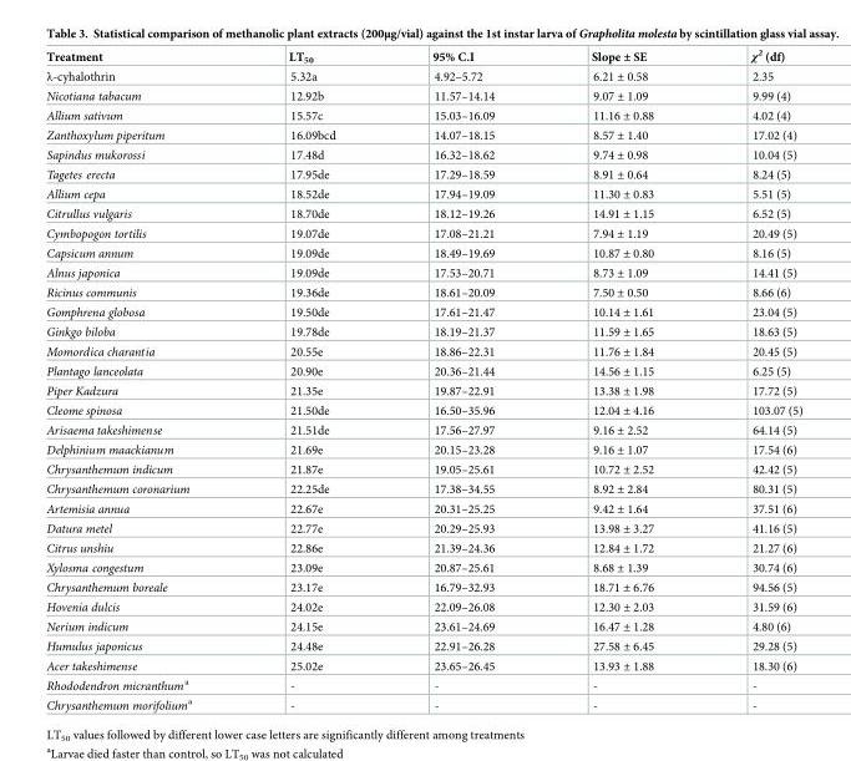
<table><thead><tr><td>Treatment</td><td>LT<sub>50</sub></td><td>95% C.I</td><td>Slope ± SE</td><td>χ<sup>2</sup> (df)</td></tr></thead><tbody><tr><td>λ-cyhalothrin</td><td>5.32a</td><td>4.92–5.72</td><td>6.21 ± 0.58</td><td>2.35</td></tr><tr><td>Nicotiana tabacum</td><td>12.92b</td><td>11.57–14.14</td><td>9.07 ± 1.09</td><td>9.99 (4)</td></tr><tr><td>Allium sativum</td><td>15.57c</td><td>15.03–16.09</td><td>11.16 ± 0.88</td><td>4.02 (4)</td></tr><tr><td>Zanthoxylum piperitum</td><td>16.09bcd</td><td>14.07–18.15</td><td>8.57 ± 1.40</td><td>17.02 (4)</td></tr><tr><td>Sapindus mukorossi</td><td>17.48d</td><td>16.32–18.62</td><td>9.74 ± 0.98</td><td>10.04 (5)</td></tr><tr><td>Tagetes erecta</td><td>17.95de</td><td>17.29–18.59</td><td>8.91 ± 0.64</td><td>8.24 (5)</td></tr><tr><td>Allium cepa</td><td>18.52de</td><td>17.94–19.09</td><td>11.30 ± 0.83</td><td>5.51 (5)</td></tr><tr><td>Citrullus vulgaris</td><td>18.70de</td><td>18.12–19.26</td><td>14.91 ± 1.15</td><td>6.52 (5)</td></tr><tr><td>Cymbopogon tortilis</td><td>19.07de</td><td>17.08–21.21</td><td>7.94 ± 1.19</td><td>20.49 (5)</td></tr><tr><td>Capsicum annum</td><td>19.09de</td><td>18.49–19.69</td><td>10.87 ± 0.80</td><td>8.16 (5)</td></tr><tr><td>Alnus japonica</td><td>19.09de</td><td>17.53–20.71</td><td>8.73 ± 1.09</td><td>14.41 (5)</td></tr><tr><td>Ricinus communis</td><td>19.36de</td><td>18.61–20.09</td><td>7.50 ± 0.50</td><td>8.66 (6)</td></tr><tr><td>Gomphrena globosa</td><td>19.50de</td><td>17.61–21.47</td><td>10.14 ± 1.61</td><td>23.04 (5)</td></tr><tr><td>Ginkgo biloba</td><td>19.78de</td><td>18.19–21.37</td><td>11.59 ± 1.65</td><td>18.63 (5)</td></tr><tr><td>Momordica charantia</td><td>20.55e</td><td>18.86–22.31</td><td>11.76 ± 1.84</td><td>20.45 (5)</td></tr><tr><td>Plantago lanceolata</td><td>20.90e</td><td>20.36–21.44</td><td>14.56 ± 1.15</td><td>6.25 (5)</td></tr><tr><td>Piper Kadzura</td><td>21.35e</td><td>19.87–22.91</td><td>13.38 ± 1.98</td><td>17.72 (5)</td></tr><tr><td>Cleome spinosa</td><td>21.50de</td><td>16.50–35.96</td><td>12.04 ± 4.16</td><td>103.07 (5)</td></tr><tr><td>Arisaema takeshimense</td><td>21.51de</td><td>17.56–27.97</td><td>9.16 ± 2.52</td><td>64.14 (5)</td></tr><tr><td>Delphinium maackianum</td><td>21.69e</td><td>20.15–23.28</td><td>9.16 ± 1.07</td><td>17.54 (6)</td></tr><tr><td>Chrysanthemum indicum</td><td>21.87e</td><td>19.05–25.61</td><td>10.72 ± 2.52</td><td>42.42 (5)</td></tr><tr><td>Chrysanthemum coronarium</td><td>22.25de</td><td>17.38–34.55</td><td>8.92 ± 2.84</td><td>80.31 (5)</td></tr><tr><td>Artemisia annua</td><td>22.67e</td><td>20.31–25.25</td><td>9.42 ± 1.64</td><td>37.51 (6)</td></tr><tr><td>Datura metel</td><td>22.77e</td><td>20.29–25.93</td><td>13.98 ± 3.27</td><td>41.16 (5)</td></tr><tr><td>Citrus unshiu</td><td>22.86e</td><td>21.39–24.36</td><td>12.84 ± 1.72</td><td>21.27 (6)</td></tr><tr><td>Xylosma congestum</td><td>23.09e</td><td>20.87–25.61</td><td>8.68 ± 1.39</td><td>30.74 (6)</td></tr><tr><td>Chrysanthemum boreale</td><td>23.17e</td><td>16.79–32.93</td><td>18.71 ± 6.76</td><td>94.56 (5)</td></tr><tr><td>Hovenia dulcis</td><td>24.02e</td><td>22.09–26.08</td><td>12.30 ± 2.03</td><td>31.59 (6)</td></tr><tr><td>Nerium indicum</td><td>24.15e</td><td>23.61–24.69</td><td>16.47 ± 1.28</td><td>4.80 (6)</td></tr><tr><td>Humulus japonicus</td><td>24.48e</td><td>22.91–26.28</td><td>27.58 ± 6.45</td><td>29.28 (5)</td></tr><tr><td>Acer takeshimense</td><td>25.02e</td><td>23.65–26.45</td><td>13.93 ± 1.88</td><td>18.30 (6)</td></tr><tr><td>Rhododendron micranthum<sup>a</sup></td><td>-</td><td>-</td><td>-</td><td>-</td></tr><tr><td>Chrysanthemum morifolium<sup>a</sup></td><td>-</td><td>-</td><td>-</td><td>-</td></tr></tbody></table>